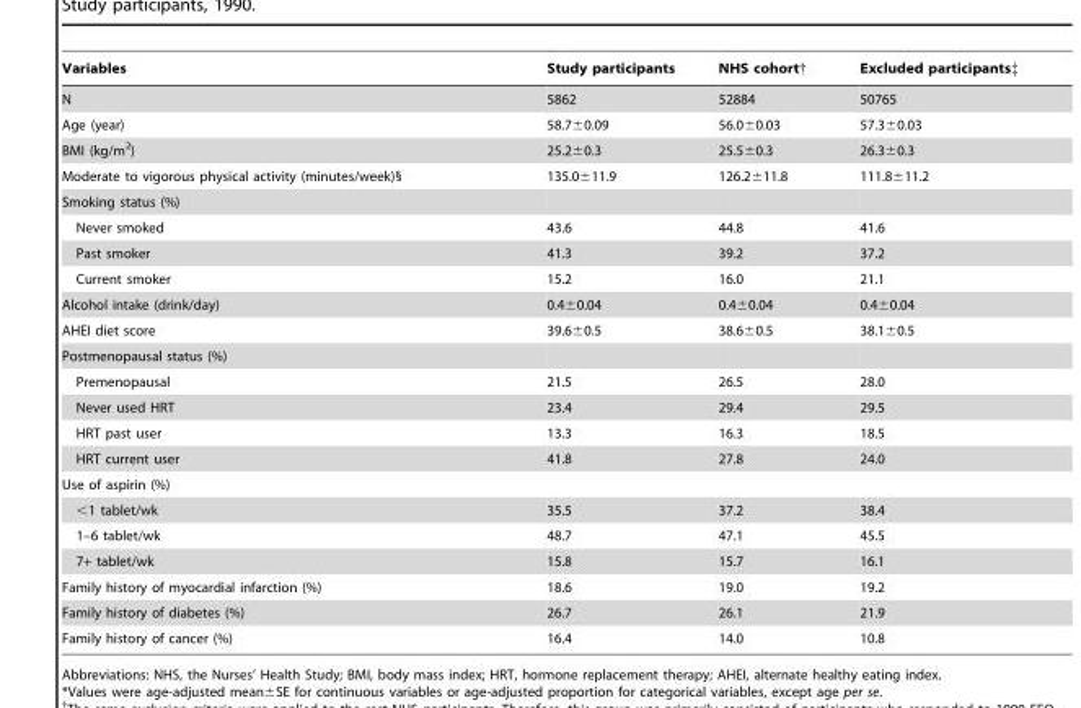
<table><thead><tr><td>Variables</td><td>Study participants</td><td>NHS cohort†</td><td>Excluded participants‡</td></tr></thead><tbody><tr><td>N</td><td>5862</td><td>52884</td><td>50765</td></tr><tr><td>Age (year)</td><td>58.7±0.09</td><td>56.0±0.03</td><td>57.3±0.03</td></tr><tr><td>BMI (kg/m<sup>2</sup>)</td><td>25.2±0.3</td><td>25.5±0.3</td><td>26.3±0.3</td></tr><tr><td>Moderate to vigorous physical activity (minutes/week)§</td><td>135.0±11.9</td><td>126.2±11.8</td><td>111.8±11.2</td></tr><tr><td colspan="4">Smoking status (%)</td></tr><tr><td>Never smoked</td><td>43.6</td><td>44.8</td><td>41.6</td></tr><tr><td>Past smoker</td><td>41.3</td><td>39.2</td><td>37.2</td></tr><tr><td>Current smoker</td><td>15.2</td><td>16.0</td><td>21.1</td></tr><tr><td>Alcohol intake (drink/day)</td><td>0.4±0.04</td><td>0.4±0.04</td><td>0.4±0.04</td></tr><tr><td>AHEI diet score</td><td>39.6±0.5</td><td>38.6±0.5</td><td>38.1±0.5</td></tr><tr><td colspan="4">Postmenopausal status (%)</td></tr><tr><td>Premenopausal</td><td>21.5</td><td>26.5</td><td>28.0</td></tr><tr><td>Never used HRT</td><td>23.4</td><td>29.4</td><td>29.5</td></tr><tr><td>HRT past user</td><td>13.3</td><td>16.3</td><td>18.5</td></tr><tr><td>HRT current user</td><td>41.8</td><td>27.8</td><td>24.0</td></tr><tr><td colspan="4">Use of aspirin (%)</td></tr><tr><td>&lt;1 tablet/wk</td><td>35.5</td><td>37.2</td><td>38.4</td></tr><tr><td>1–6 tablet/wk</td><td>48.7</td><td>47.1</td><td>45.5</td></tr><tr><td>7+ tablet/wk</td><td>15.8</td><td>15.7</td><td>16.1</td></tr><tr><td>Family history of myocardial infarction (%)</td><td>18.6</td><td>19.0</td><td>19.2</td></tr><tr><td>Family history of diabetes (%)</td><td>26.7</td><td>26.1</td><td>21.9</td></tr><tr><td>Family history of cancer (%)</td><td>16.4</td><td>14.0</td><td>10.8</td></tr></tbody></table>